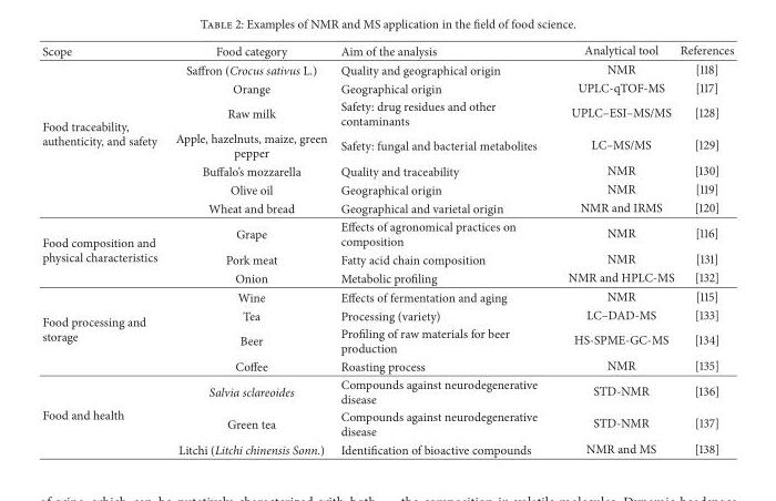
<table><thead><tr><td>Scope</td><td>Food category</td><td>Aim of the analysis</td><td>Analytical tool</td><td>References</td></tr></thead><tbody><tr><td rowspan="7">Food traceability, authenticity, and safety</td><td>Saffron (Crocus sativus L.)</td><td>Quality and geographical origin</td><td>NMR</td><td>[118]</td></tr><tr><td>Orange</td><td>Geographical origin</td><td>UPLC-qTOF-MS</td><td>[117]</td></tr><tr><td>Raw milk</td><td>Safety: drug residues and other contaminants</td><td>UPLC–ESI–MS/MS</td><td>[128]</td></tr><tr><td>Apple, hazelnuts, maize, green pepper</td><td>Safety: fungal and bacterial metabolites</td><td>LC–MS/MS</td><td>[129]</td></tr><tr><td>Buffalo’s mozzarella</td><td>Quality and traceability</td><td>NMR</td><td>[130]</td></tr><tr><td>Olive oil</td><td>Geographical origin</td><td>NMR</td><td>[119]</td></tr><tr><td>Wheat and bread</td><td>Geographical and varietal origin</td><td>NMR and IRMS</td><td>[120]</td></tr><tr><td rowspan="3">Food composition and physical characteristics</td><td>Grape</td><td>Effects of agronomical practices on composition</td><td>NMR</td><td>[116]</td></tr><tr><td>Pork meat</td><td>Fatty acid chain composition</td><td>NMR</td><td>[131]</td></tr><tr><td>Onion</td><td>Metabolic profiling</td><td>NMR and HPLC-MS</td><td>[132]</td></tr><tr><td rowspan="4">Food processing and storage</td><td>Wine</td><td>Effects of fermentation and aging</td><td>NMR</td><td>[115]</td></tr><tr><td>Tea</td><td>Processing (variety)</td><td>LC–DAD-MS</td><td>[133]</td></tr><tr><td>Beer</td><td>Profiling of raw materials for beer production</td><td>HS-SPME-GC-MS</td><td>[134]</td></tr><tr><td>Coffee</td><td>Roasting process</td><td>NMR</td><td>[135]</td></tr><tr><td rowspan="3">Food and health</td><td>Salvia sclareoides</td><td>Compounds against neurodegenerative disease</td><td>STD-NMR</td><td>[136]</td></tr><tr><td>Green tea</td><td>Compounds against neurodegenerative disease</td><td>STD-NMR</td><td>[137]</td></tr><tr><td>Litchi (Litchi chinensis Sonn.)</td><td>Identification of bioactive compounds</td><td>NMR and MS</td><td>[138]</td></tr></tbody></table>